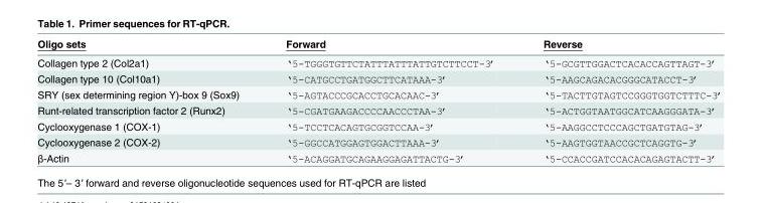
<table><thead><tr><td>Oligo sets</td><td>Forward</td><td>Reverse</td></tr></thead><tbody><tr><td>Collagen type 2 (Col2a1)</td><td>‘5-TGGGTGTTCTATTTATTTATTGTCTTCCT-3’</td><td>‘5-GCGTTGGACTCACACCAGTTAGT-3’</td></tr><tr><td>Collagen type 10 (Col10a1)</td><td>‘5-CATGCCTGATGGCTTCATAAA-3’</td><td>‘5-AAGCAGACACGGGCATACCT-3’</td></tr><tr><td>SRY (sex determining region Y)-box 9 (Sox9)</td><td>‘5-AGTACCCGCACCTGCACAAC-3’</td><td>‘5-TACTTGTAGTCCGGGTGGTCTTTC-3’</td></tr><tr><td>Runt-related transcription factor 2 (Runx2)</td><td>‘5-CGATGAAGACCCCAACCCTAA-3’</td><td>‘5-ACTGGTAATGGCATCAAGGGATA-3’</td></tr><tr><td>Cyclooxygenase 1 (COX-1)</td><td>‘5-TCCTCACAGTGCGGTCCAA-3’</td><td>‘5-AAGGCCTCCCAGCTGATGTAG-3’</td></tr><tr><td>Cyclooxygenase 2 (COX-2)</td><td>‘5-GGCCATGGAGTGGACTTAAA-3’</td><td>‘5-AAGTGGTAACCGCTCAGGTG-3’</td></tr><tr><td>β-Actin</td><td>‘5-ACAGGATGCAGAAGGAGATTACTG-3’</td><td>‘5-CCACCGATCCACACAGAGTACTT-3’</td></tr></tbody></table>